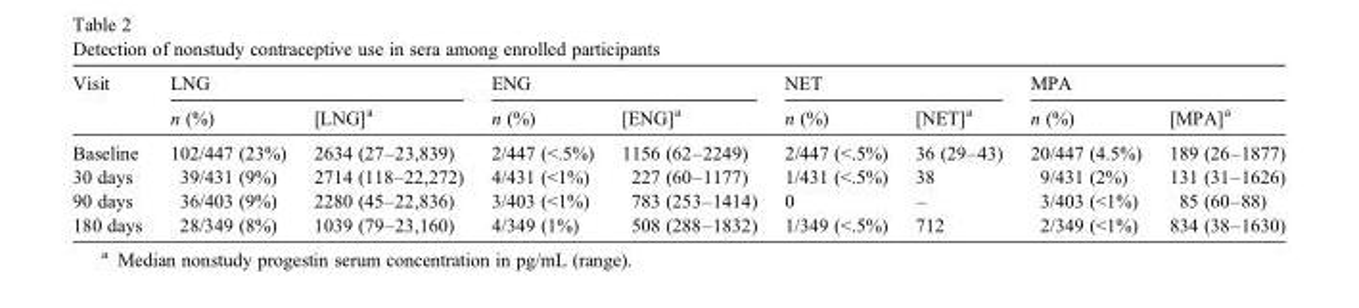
<table><thead><tr><td rowspan="2">Visit</td><td colspan="2">LNG</td><td colspan="2">ENG</td><td colspan="2">NET</td><td colspan="2">MPA</td></tr><tr><td>n (%)</td><td>[LNG]<sup>a</sup></td><td>n (%)</td><td>[ENG]<sup>a</sup></td><td>n (%)</td><td>[NET]<sup>a</sup></td><td>n (%)</td><td>[MPA]<sup>a</sup></td></tr></thead><tbody><tr><td>Baseline</td><td>102/447 (23%)</td><td>2634 (27–23,839)</td><td>2/447 (&lt;.5%)</td><td>1156 (62–2249)</td><td>2/447 (&lt;.5%)</td><td>36 (29–43)</td><td>20/447 (4.5%)</td><td>189 (26–1877)</td></tr><tr><td>30 days</td><td>39/431 (9%)</td><td>2714 (118–22,272)</td><td>4/431 (&lt;1%)</td><td>227 (60–1177)</td><td>1/431 (&lt;.5%)</td><td>38</td><td>9/431 (2%)</td><td>131 (31–1626)</td></tr><tr><td>90 days</td><td>36/403 (9%)</td><td>2280 (45–22,836)</td><td>3/403 (&lt;1%)</td><td>783 (253–1414)</td><td>0</td><td>–</td><td>3/403 (&lt;1%)</td><td>85 (60–88)</td></tr><tr><td>180 days</td><td>28/349 (8%)</td><td>1039 (79–23,160)</td><td>4/349 (1%)</td><td>508 (288–1832)</td><td>1/349 (&lt;.5%)</td><td>712</td><td>2/349 (&lt;1%)</td><td>834 (38–1630)</td></tr></tbody></table>